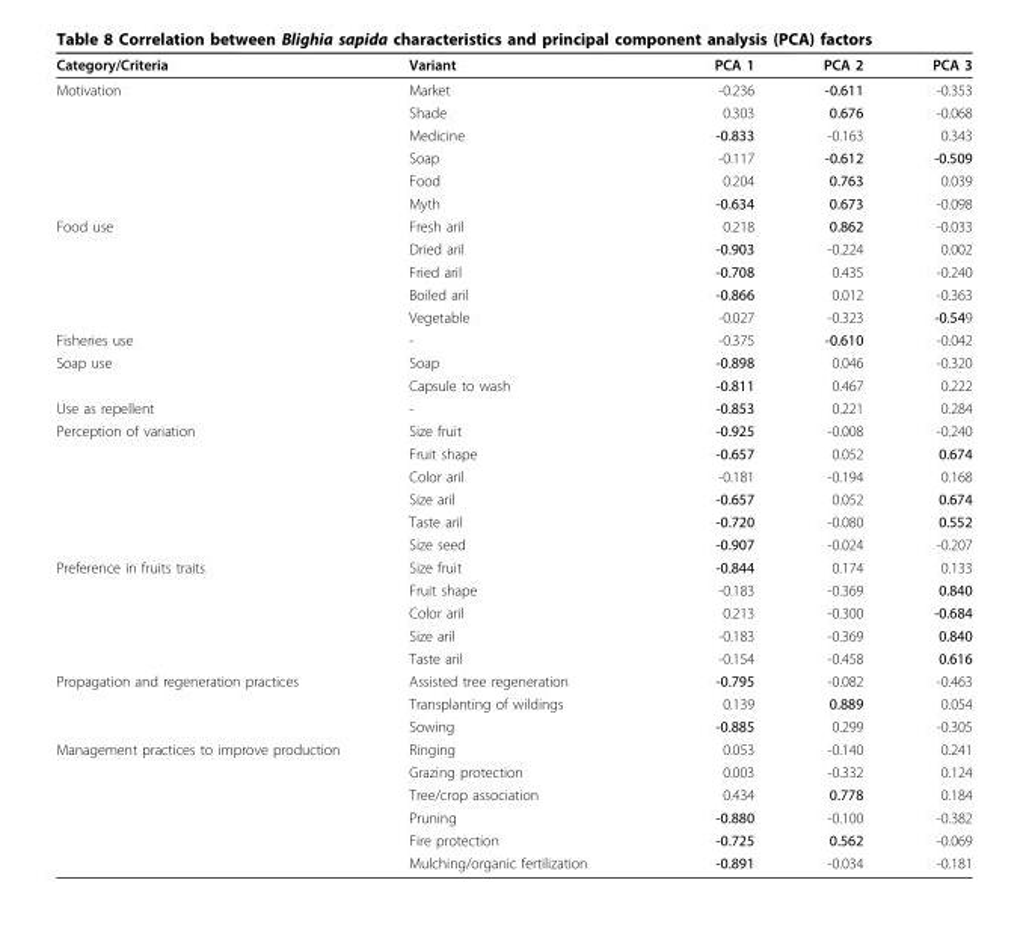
<table><thead><tr><td>Category/Criteria</td><td>Variant</td><td>PCA 1</td><td>PCA 2</td><td>PCA 3</td></tr></thead><tbody><tr><td rowspan="6">Motivation</td><td>Market</td><td>-0.236</td><td>-0.611</td><td>-0.353</td></tr><tr><td>Shade</td><td>0.303</td><td>0.676</td><td>-0.068</td></tr><tr><td>Medicine</td><td>-0.833</td><td>-0.163</td><td>0.343</td></tr><tr><td>Soap</td><td>-0.117</td><td>-0.612</td><td>-0.509</td></tr><tr><td>Food</td><td>0.204</td><td>0.763</td><td>0.039</td></tr><tr><td>Myth</td><td>-0.634</td><td>0.673</td><td>-0.098</td></tr><tr><td rowspan="5">Food use</td><td>Fresh aril</td><td>0.218</td><td>0.862</td><td>-0.033</td></tr><tr><td>Dried aril</td><td>-0.903</td><td>-0.224</td><td>0.002</td></tr><tr><td>Fried aril</td><td>-0.708</td><td>0.435</td><td>-0.240</td></tr><tr><td>Boiled aril</td><td>-0.866</td><td>0.012</td><td>-0.363</td></tr><tr><td>Vegetable</td><td>-0.027</td><td>-0.323</td><td>-0.549</td></tr><tr><td>Fisheries use</td><td>-</td><td>-0.375</td><td>-0.610</td><td>-0.042</td></tr><tr><td rowspan="2">Soap use</td><td>Soap</td><td>-0.898</td><td>0.046</td><td>-0.320</td></tr><tr><td>Capsule to wash</td><td>-0.811</td><td>0.467</td><td>0.222</td></tr><tr><td>Use as repellent</td><td>-</td><td>-0.853</td><td>0.221</td><td>0.284</td></tr><tr><td rowspan="6">Perception of variation</td><td>Size fruit</td><td>-0.925</td><td>-0.008</td><td>-0.240</td></tr><tr><td>Fruit shape</td><td>-0.657</td><td>0.052</td><td>0.674</td></tr><tr><td>Color aril</td><td>-0.181</td><td>-0.194</td><td>0.168</td></tr><tr><td>Size aril</td><td>-0.657</td><td>0.052</td><td>0.674</td></tr><tr><td>Taste aril</td><td>-0.720</td><td>-0.080</td><td>0.552</td></tr><tr><td>Size seed</td><td>-0.907</td><td>-0.024</td><td>-0.207</td></tr><tr><td rowspan="5">Preference in fruits traits</td><td>Size fruit</td><td>-0.844</td><td>0.174</td><td>0.133</td></tr><tr><td>Fruit shape</td><td>-0.183</td><td>-0.369</td><td>0.840</td></tr><tr><td>Color aril</td><td>0.213</td><td>-0.300</td><td>-0.684</td></tr><tr><td>Size aril</td><td>-0.183</td><td>-0.369</td><td>0.840</td></tr><tr><td>Taste aril</td><td>-0.154</td><td>-0.458</td><td>0.616</td></tr><tr><td rowspan="3">Propagation and regeneration practices</td><td>Assisted tree regeneration</td><td>-0.795</td><td>-0.082</td><td>-0.463</td></tr><tr><td>Transplanting of wildings</td><td>0.139</td><td>0.889</td><td>0.054</td></tr><tr><td>Sowing</td><td>-0.885</td><td>0.299</td><td>-0.305</td></tr><tr><td rowspan="6">Management practices to improve production</td><td>Ringing</td><td>0.053</td><td>-0.140</td><td>0.241</td></tr><tr><td>Grazing protection</td><td>0.003</td><td>-0.332</td><td>0.124</td></tr><tr><td>Tree/crop association</td><td>0.434</td><td>0.778</td><td>0.184</td></tr><tr><td>Pruning</td><td>-0.880</td><td>-0.100</td><td>-0.382</td></tr><tr><td>Fire protection</td><td>-0.725</td><td>0.562</td><td>-0.069</td></tr><tr><td>Mulching/organic fertilization</td><td>-0.891</td><td>-0.034</td><td>-0.181</td></tr></tbody></table>